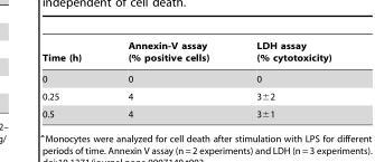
<table><thead><tr><td>Time (h)</td><td>Annexin-V assay (% positive cells)</td><td>LDH assay (% cytotoxicity)</td></tr></thead><tbody><tr><td>0</td><td>0</td><td>0</td></tr><tr><td>0.25</td><td>4</td><td>3±2</td></tr><tr><td>0.5</td><td>4</td><td>3±1</td></tr></tbody></table>